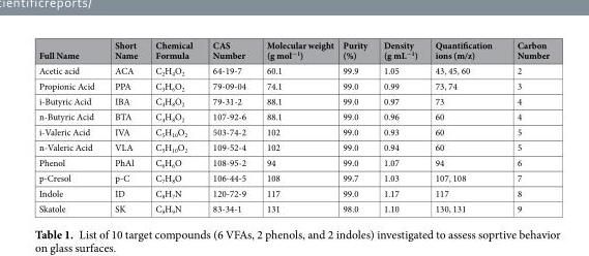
<table><thead><tr><td>Full Name</td><td>Short Name</td><td>Chemical Formula</td><td>CAS Number</td><td>Molecular weight (g mol<sup>−1</sup>)</td><td>Purity (%)</td><td>Density (g mL<sup>−1</sup>)</td><td>Quantification ions (m/z)</td><td>Carbon Number</td></tr></thead><tbody><tr><td>Acetic acid</td><td>ACA</td><td>C<sub>2</sub>H<sub>4</sub>O<sub>2</sub></td><td>64-19-7</td><td>60.1</td><td>99.9</td><td>1.05</td><td>43, 45, 60</td><td>2</td></tr><tr><td>Propionic Acid</td><td>PPA</td><td>C<sub>3</sub>H<sub>6</sub>O<sub>2</sub></td><td>79-09-04</td><td>74.1</td><td>99.0</td><td>0.99</td><td>73, 74</td><td>3</td></tr><tr><td>i-Butyric Acid</td><td>IBA</td><td>C<sub>4</sub>H<sub>8</sub>O<sub>2</sub></td><td>79-31-2</td><td>88.1</td><td>99.0</td><td>0.97</td><td>73</td><td>4</td></tr><tr><td>n-Butyric Acid</td><td>BTA</td><td>C<sub>4</sub>H<sub>8</sub>O<sub>2</sub></td><td>107-92-6</td><td>88.1</td><td>99.0</td><td>0.96</td><td>60</td><td>4</td></tr><tr><td>i-Valeric Acid</td><td>IVA</td><td>C<sub>5</sub>H<sub>10</sub>O<sub>2</sub></td><td>503-74-2</td><td>102</td><td>99.0</td><td>0.93</td><td>60</td><td>5</td></tr><tr><td>n-Valeric Acid</td><td>VLA</td><td>C<sub>5</sub>H<sub>10</sub>O<sub>2</sub></td><td>109-52-4</td><td>102</td><td>99.0</td><td>0.94</td><td>60</td><td>5</td></tr><tr><td>Phenol</td><td>PhAl</td><td>C<sub>6</sub>H<sub>6</sub>O</td><td>108-95-2</td><td>94</td><td>99.0</td><td>1.07</td><td>94</td><td>6</td></tr><tr><td>p-Cresol</td><td>p-C</td><td>C<sub>7</sub>H<sub>8</sub>O</td><td>106-44-5</td><td>108</td><td>99.7</td><td>1.03</td><td>107, 108</td><td>7</td></tr><tr><td>Indole</td><td>ID</td><td>C<sub>8</sub>H<sub>7</sub>N</td><td>120-72-9</td><td>117</td><td>99.0</td><td>1.17</td><td>117</td><td>8</td></tr><tr><td>Skatole</td><td>SK</td><td>C<sub>9</sub>H<sub>9</sub>N</td><td>83-34-1</td><td>131</td><td>98.0</td><td>1.10</td><td>130, 131</td><td>9</td></tr></tbody></table>